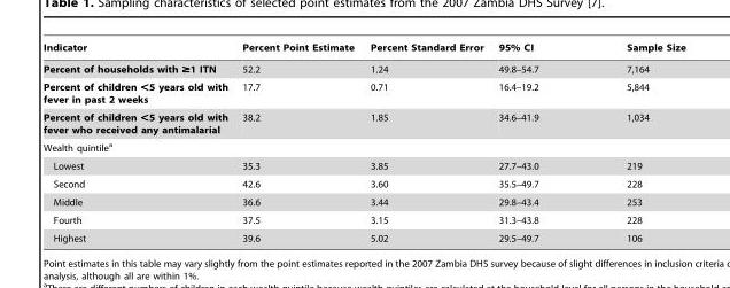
<table><thead><tr><td>Indicator</td><td>Percent Point Estimate</td><td>Percent Standard Error</td><td>95% CI</td><td>Sample Size</td></tr></thead><tbody><tr><td>Percent of households with ≥1 ITN</td><td>52.2</td><td>1.24</td><td>49.8–54.7</td><td>7,164</td></tr><tr><td>Percent of children &lt;5 years old with fever in past 2 weeks</td><td>17.7</td><td>0.71</td><td>16.4–19.2</td><td>5,844</td></tr><tr><td>Percent of children &lt;5 years old with fever who received any antimalarial</td><td>38.2</td><td>1.85</td><td>34.6–41.9</td><td>1,034</td></tr><tr><td colspan="5">Wealth quintile<sup>a</sup></td></tr><tr><td>Lowest</td><td>35.3</td><td>3.85</td><td>27.7–43.0</td><td>219</td></tr><tr><td>Second</td><td>42.6</td><td>3.60</td><td>35.5–49.7</td><td>228</td></tr><tr><td>Middle</td><td>36.6</td><td>3.44</td><td>29.8–43.4</td><td>253</td></tr><tr><td>Fourth</td><td>37.5</td><td>3.15</td><td>31.3–43.8</td><td>228</td></tr><tr><td>Highest</td><td>39.6</td><td>5.02</td><td>29.5–49.7</td><td>106</td></tr></tbody></table>